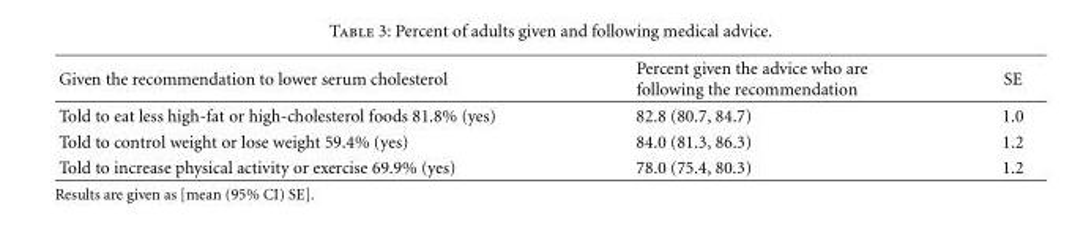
<table><thead><tr><td>Given the recommendation to lower serum cholesterol</td><td>Percent given the advice who are following the recommendation</td><td>SE</td></tr></thead><tbody><tr><td>Told to eat less high-fat or high-cholesterol foods 81.8% (yes)</td><td>82.8 (80.7, 84.7)</td><td>1.0</td></tr><tr><td>Told to control weight or lose weight 59.4% (yes)</td><td>84.0 (81.3, 86.3)</td><td>1.2</td></tr><tr><td>Told to increase physical activity or exercise 69.9% (yes)</td><td>78.0 (75.4, 80.3)</td><td>1.2</td></tr></tbody></table>